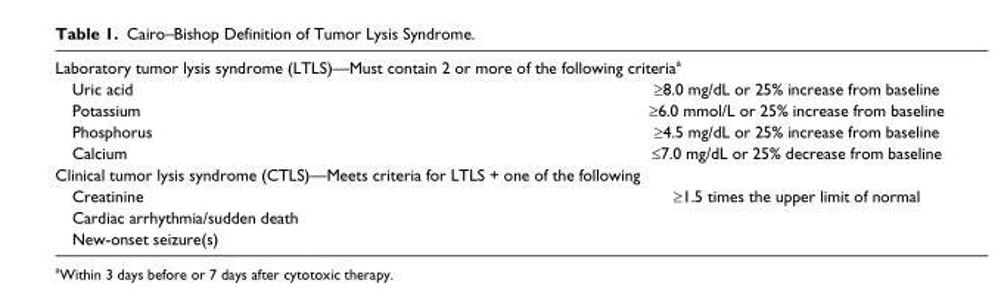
<table><tbody><tr><td colspan="2">Laboratory tumor lysis syndrome (LTLS)—Must contain 2 or more of the following criteria<sup>a</sup></td></tr><tr><td>Uric acid</td><td>≥8.0 mg/dL or 25% increase from baseline</td></tr><tr><td>Potassium</td><td>≥6.0 mmol/L or 25% increase from baseline</td></tr><tr><td>Phosphorus</td><td>≥4.5 mg/dL or 25% increase from baseline</td></tr><tr><td>Calcium</td><td>≤7.0 mg/dL or 25% decrease from baseline</td></tr><tr><td colspan="2">Clinical tumor lysis syndrome (CTLS)—Meets criteria for LTLS + one of the following</td></tr><tr><td>Creatinine</td><td>≥1.5 times the upper limit of normal</td></tr><tr><td colspan="2">Cardiac arrhythmia/sudden death</td></tr><tr><td>New-onset seizure(s)</td><td></td></tr></tbody></table>